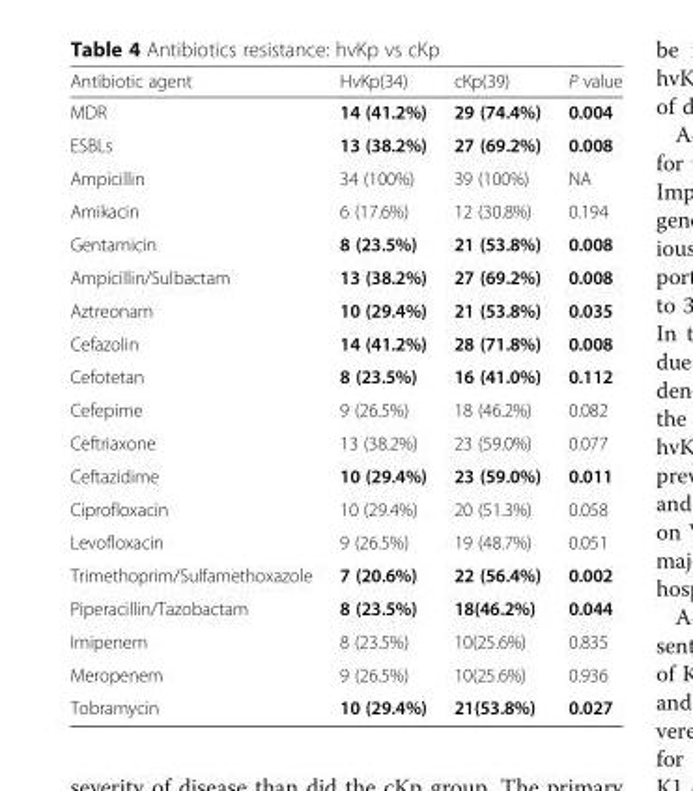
<table><thead><tr><td>Antibiotic agent</td><td>HvKp(34)</td><td>cKp(39)</td><td>P value</td></tr></thead><tbody><tr><td>MDR</td><td>14 (41.2%)</td><td>29 (74.4%)</td><td>0.004</td></tr><tr><td>ESBLs</td><td>13 (38.2%)</td><td>27 (69.2%)</td><td>0.008</td></tr><tr><td>Ampicillin</td><td>34 (100%)</td><td>39 (100%)</td><td>NA</td></tr><tr><td>Amikacin</td><td>6 (17.6%)</td><td>12 (30.8%)</td><td>0.194</td></tr><tr><td>Gentamicin</td><td>8 (23.5%)</td><td>21 (53.8%)</td><td>0.008</td></tr><tr><td>Ampicillin/Sulbactam</td><td>13 (38.2%)</td><td>27 (69.2%)</td><td>0.008</td></tr><tr><td>Aztreonam</td><td>10 (29.4%)</td><td>21 (53.8%)</td><td>0.035</td></tr><tr><td>Cefazolin</td><td>14 (41.2%)</td><td>28 (71.8%)</td><td>0.008</td></tr><tr><td>Cefotetan</td><td>8 (23.5%)</td><td>16 (41.0%)</td><td>0.112</td></tr><tr><td>Cefepime</td><td>9 (26.5%)</td><td>18 (46.2%)</td><td>0.082</td></tr><tr><td>Ceftriaxone</td><td>13 (38.2%)</td><td>23 (59.0%)</td><td>0.077</td></tr><tr><td>Ceftazidime</td><td>10 (29.4%)</td><td>23 (59.0%)</td><td>0.011</td></tr><tr><td>Ciprofloxacin</td><td>10 (29.4%)</td><td>20 (51.3%)</td><td>0.058</td></tr><tr><td>Levofloxacin</td><td>9 (26.5%)</td><td>19 (48.7%)</td><td>0.051</td></tr><tr><td>Trimethoprim/Sulfamethoxazole</td><td>7 (20.6%)</td><td>22 (56.4%)</td><td>0.002</td></tr><tr><td>Piperacillin/Tazobactam</td><td>8 (23.5%)</td><td>18(46.2%)</td><td>0.044</td></tr><tr><td>Imipenem</td><td>8 (23.5%)</td><td>10(25.6%)</td><td>0.835</td></tr><tr><td>Meropenem</td><td>9 (26.5%)</td><td>10(25.6%)</td><td>0.936</td></tr><tr><td>Tobramycin</td><td>10 (29.4%)</td><td>21(53.8%)</td><td>0.027</td></tr></tbody></table>